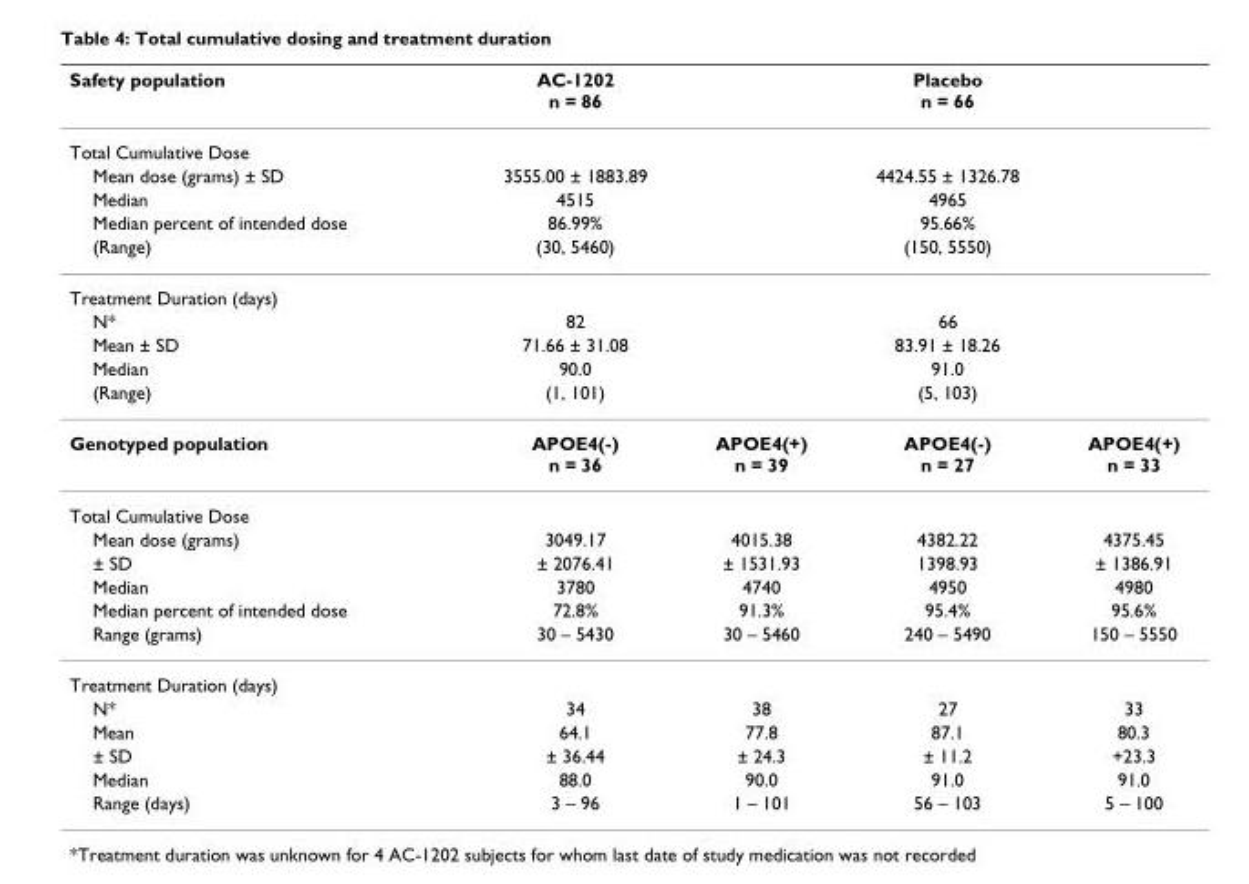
<table><thead><tr><td>Safety population</td><td>AC-1202 n = 86</td><td></td><td>Placebo n = 66</td><td></td></tr></thead><tbody><tr><td colspan="5">Total Cumulative Dose</td></tr><tr><td>Mean dose (grams) ± SD</td><td>3555.00 ± 1883.89</td><td></td><td>4424.55 ± 1326.78</td><td></td></tr><tr><td>Median</td><td>4515</td><td></td><td>4965</td><td></td></tr><tr><td>Median percent of intended dose</td><td>86.99%</td><td></td><td>95.66%</td><td></td></tr><tr><td>(Range)</td><td>(30, 5460)</td><td></td><td>(150, 5550)</td><td></td></tr><tr><td colspan="5">Treatment Duration (days)</td></tr><tr><td>N*</td><td>82</td><td></td><td>66</td><td></td></tr><tr><td>Mean ± SD</td><td>71.66 ± 31.08</td><td></td><td>83.91 ± 18.26</td><td></td></tr><tr><td>Median</td><td>90.0</td><td></td><td>91.0</td><td></td></tr><tr><td>(Range)</td><td>(1, 101)</td><td></td><td>(5, 103)</td><td></td></tr><tr><td>Genotyped population</td><td>APOE4(-) n = 36</td><td>APOE4(+) n = 39</td><td>APOE4(-) n = 27</td><td>APOE4(+) n = 33</td></tr><tr><td colspan="5">Total Cumulative Dose</td></tr><tr><td>Mean dose (grams)</td><td>3049.17</td><td>4015.38</td><td>4382.22</td><td>4375.45</td></tr><tr><td>± SD</td><td>± 2076.41</td><td>± 1531.93</td><td>1398.93</td><td>± 1386.91</td></tr><tr><td>Median</td><td>3780</td><td>4740</td><td>4950</td><td>4980</td></tr><tr><td>Median percent of intended dose</td><td>72.8%</td><td>91.3%</td><td>95.4%</td><td>95.6%</td></tr><tr><td>Range (grams)</td><td>30 – 5430</td><td>30 – 5460</td><td>240 – 5490</td><td>150 – 5550</td></tr><tr><td colspan="5">Treatment Duration (days)</td></tr><tr><td>N*</td><td>34</td><td>38</td><td>27</td><td>33</td></tr><tr><td>Mean</td><td>64.1</td><td>77.8</td><td>87.1</td><td>80.3</td></tr><tr><td>± SD</td><td>± 36.44</td><td>± 24.3</td><td>± 11.2</td><td>+23.3</td></tr><tr><td>Median</td><td>88.0</td><td>90.0</td><td>91.0</td><td>91.0</td></tr><tr><td>Range (days)</td><td>3 – 96</td><td>1 – 101</td><td>56 – 103</td><td>5 – 100</td></tr></tbody></table>